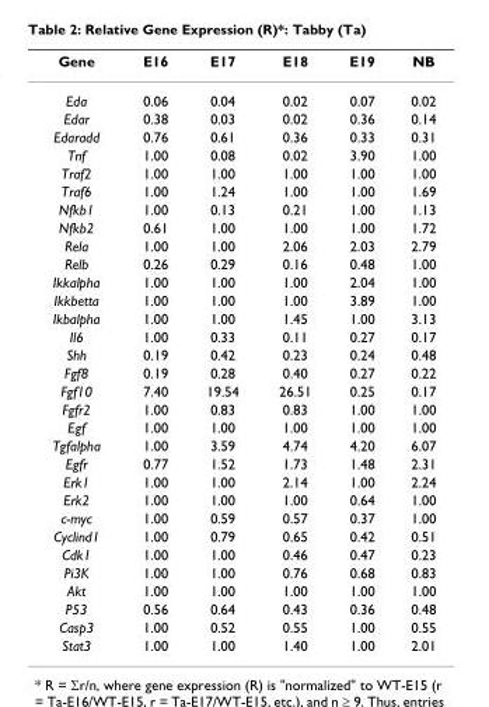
<table><thead><tr><td>Gene</td><td>E16</td><td>E17</td><td>E18</td><td>E19</td><td>NB</td></tr></thead><tbody><tr><td>Eda</td><td>0.06</td><td>0.04</td><td>0.02</td><td>0.07</td><td>0.02</td></tr><tr><td>Edar</td><td>0.38</td><td>0.03</td><td>0.02</td><td>0.36</td><td>0.14</td></tr><tr><td>Edaradd</td><td>0.76</td><td>0.61</td><td>0.36</td><td>0.33</td><td>0.31</td></tr><tr><td>Tnf</td><td>1.00</td><td>0.08</td><td>0.02</td><td>3.90</td><td>1.00</td></tr><tr><td>Traf2</td><td>1.00</td><td>1.00</td><td>1.00</td><td>1.00</td><td>1.00</td></tr><tr><td>Traf6</td><td>1.00</td><td>1.24</td><td>1.00</td><td>1.00</td><td>1.69</td></tr><tr><td>Nfkb1</td><td>1.00</td><td>0.13</td><td>0.21</td><td>1.00</td><td>1.13</td></tr><tr><td>Nfkb2</td><td>0.61</td><td>1.00</td><td>1.00</td><td>1.00</td><td>1.72</td></tr><tr><td>Rela</td><td>1.00</td><td>1.00</td><td>2.06</td><td>2.03</td><td>2.79</td></tr><tr><td>Relb</td><td>0.26</td><td>0.29</td><td>0.16</td><td>0.48</td><td>1.00</td></tr><tr><td>Ikkalpha</td><td>1.00</td><td>1.00</td><td>1.00</td><td>2.04</td><td>1.00</td></tr><tr><td>Ikkbetta</td><td>1.00</td><td>1.00</td><td>1.00</td><td>3.89</td><td>1.00</td></tr><tr><td>Ikbalpha</td><td>1.00</td><td>1.00</td><td>1.45</td><td>1.00</td><td>3.13</td></tr><tr><td>Il6</td><td>1.00</td><td>0.33</td><td>0.11</td><td>0.27</td><td>0.17</td></tr><tr><td>Shh</td><td>0.19</td><td>0.42</td><td>0.23</td><td>0.24</td><td>0.48</td></tr><tr><td>Fgf8</td><td>0.19</td><td>0.28</td><td>0.40</td><td>0.27</td><td>0.22</td></tr><tr><td>Fgf10</td><td>7.40</td><td>19.54</td><td>26.51</td><td>0.25</td><td>0.17</td></tr><tr><td>Fgfr2</td><td>1.00</td><td>0.83</td><td>0.83</td><td>1.00</td><td>1.00</td></tr><tr><td>Egf</td><td>1.00</td><td>1.00</td><td>1.00</td><td>1.00</td><td>1.00</td></tr><tr><td>Tgfalpha</td><td>1.00</td><td>3.59</td><td>4.74</td><td>4.20</td><td>6.07</td></tr><tr><td>Egfr</td><td>0.77</td><td>1.52</td><td>1.73</td><td>1.48</td><td>2.31</td></tr><tr><td>Erk1</td><td>1.00</td><td>1.00</td><td>2.14</td><td>1.00</td><td>2.24</td></tr><tr><td>Erk2</td><td>1.00</td><td>1.00</td><td>1.00</td><td>0.64</td><td>1.00</td></tr><tr><td>c-myc</td><td>1.00</td><td>0.59</td><td>0.57</td><td>0.37</td><td>1.00</td></tr><tr><td>Cyclind1</td><td>1.00</td><td>0.79</td><td>0.65</td><td>0.42</td><td>0.51</td></tr><tr><td>Cdk1</td><td>1.00</td><td>1.00</td><td>0.46</td><td>0.47</td><td>0.23</td></tr><tr><td>Pi3K</td><td>1.00</td><td>1.00</td><td>0.76</td><td>0.68</td><td>0.83</td></tr><tr><td>Akt</td><td>1.00</td><td>1.00</td><td>1.00</td><td>1.00</td><td>1.00</td></tr><tr><td>P53</td><td>0.56</td><td>0.64</td><td>0.43</td><td>0.36</td><td>0.48</td></tr><tr><td>Casp3</td><td>1.00</td><td>0.52</td><td>0.55</td><td>1.00</td><td>0.55</td></tr><tr><td>Stat3</td><td>1.00</td><td>1.00</td><td>1.40</td><td>1.00</td><td>2.01</td></tr></tbody></table>